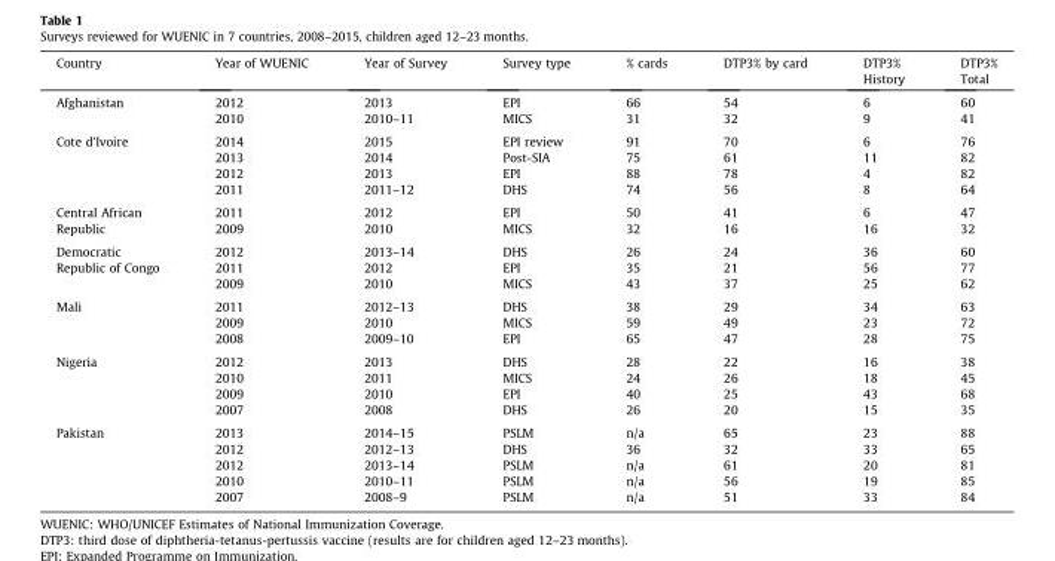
<table><thead><tr><td>Country</td><td>Year of WUENIC</td><td>Year of Survey</td><td>Survey type</td><td>% cards</td><td>DTP3% by card</td><td>DTP3% History</td><td>DTP3% Total</td></tr></thead><tbody><tr><td rowspan="2">Afghanistan</td><td>2012</td><td>2013</td><td>EPI</td><td>66</td><td>54</td><td>6</td><td>60</td></tr><tr><td>2010</td><td>2010–11</td><td>MICS</td><td>31</td><td>32</td><td>9</td><td>41</td></tr><tr><td rowspan="4">Cote d’Ivoire</td><td>2014</td><td>2015</td><td>EPI review</td><td>91</td><td>70</td><td>6</td><td>76</td></tr><tr><td>2013</td><td>2014</td><td>Post-SIA</td><td>75</td><td>61</td><td>11</td><td>82</td></tr><tr><td>2012</td><td>2013</td><td>EPI</td><td>88</td><td>78</td><td>4</td><td>82</td></tr><tr><td>2011</td><td>2011–12</td><td>DHS</td><td>74</td><td>56</td><td>8</td><td>64</td></tr><tr><td>Central African</td><td>2011</td><td>2012</td><td>EPI</td><td>50</td><td>41</td><td>6</td><td>47</td></tr><tr><td>Republic</td><td>2009</td><td>2010</td><td>MICS</td><td>32</td><td>16</td><td>16</td><td>32</td></tr><tr><td>Democratic</td><td>2012</td><td>2013–14</td><td>DHS</td><td>26</td><td>24</td><td>36</td><td>60</td></tr><tr><td rowspan="2">Republic of Congo</td><td>2011</td><td>2012</td><td>EPI</td><td>35</td><td>21</td><td>56</td><td>77</td></tr><tr><td>2009</td><td>2010</td><td>MICS</td><td>43</td><td>37</td><td>25</td><td>62</td></tr><tr><td rowspan="3">Mali</td><td>2011</td><td>2012–13</td><td>DHS</td><td>38</td><td>29</td><td>34</td><td>63</td></tr><tr><td>2009</td><td>2010</td><td>MICS</td><td>59</td><td>49</td><td>23</td><td>72</td></tr><tr><td>2008</td><td>2009–10</td><td>EPI</td><td>65</td><td>47</td><td>28</td><td>75</td></tr><tr><td rowspan="4">Nigeria</td><td>2012</td><td>2013</td><td>DHS</td><td>28</td><td>22</td><td>16</td><td>38</td></tr><tr><td>2010</td><td>2011</td><td>MICS</td><td>24</td><td>26</td><td>18</td><td>45</td></tr><tr><td>2009</td><td>2010</td><td>EPI</td><td>40</td><td>25</td><td>43</td><td>68</td></tr><tr><td>2007</td><td>2008</td><td>DHS</td><td>26</td><td>20</td><td>15</td><td>35</td></tr><tr><td rowspan="5">Pakistan</td><td>2013</td><td>2014–15</td><td>PSLM</td><td>n/a</td><td>65</td><td>23</td><td>88</td></tr><tr><td>2012</td><td>2012–13</td><td>DHS</td><td>36</td><td>32</td><td>33</td><td>65</td></tr><tr><td>2012</td><td>2013–14</td><td>PSLM</td><td>n/a</td><td>61</td><td>20</td><td>81</td></tr><tr><td>2010</td><td>2010–11</td><td>PSLM</td><td>n/a</td><td>56</td><td>19</td><td>85</td></tr><tr><td>2007</td><td>2008–9</td><td>PSLM</td><td>n/a</td><td>51</td><td>33</td><td>84</td></tr></tbody></table>